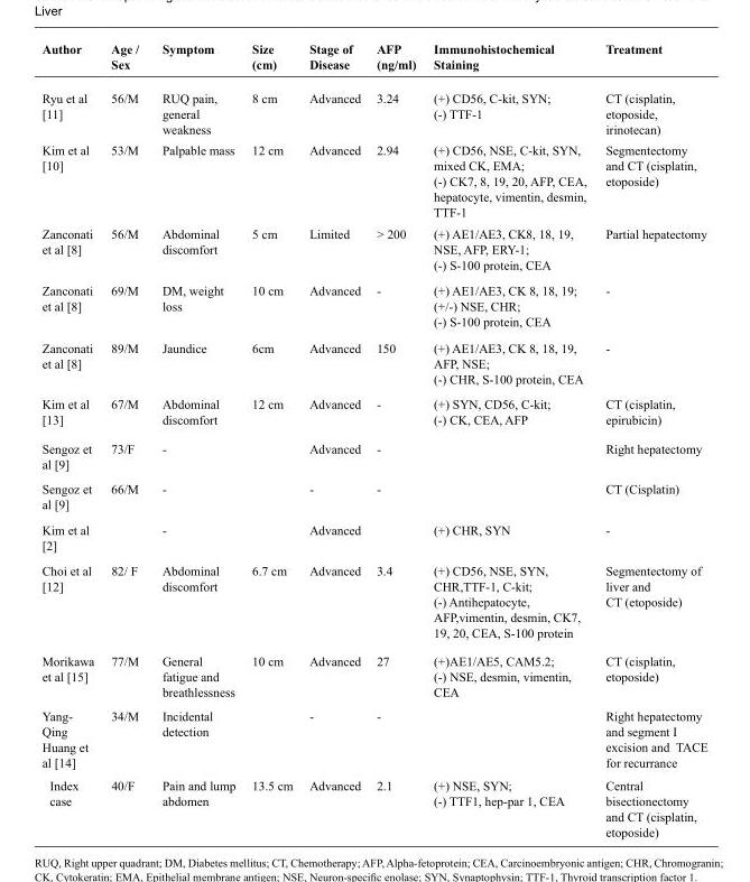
<table><thead><tr><td>Author</td><td>Age / Sex</td><td>Symptom</td><td>Size (cm)</td><td>Stage of Disease</td><td>AFP (ng/ml)</td><td>Immunohistochemical Staining</td><td>Treatment</td></tr></thead><tbody><tr><td>Ryu et al [11]</td><td>56/M</td><td>RUQ pain, general weakness</td><td>8 cm</td><td>Advanced</td><td>3.24</td><td>(+) CD56, C-kit, SYN; (-) TTF-1</td><td>CT (cisplatin, etoposide, irinotecan)</td></tr><tr><td>Kim et al [10]</td><td>53/M</td><td>Palpable mass</td><td>12 cm</td><td>Advanced</td><td>2.94</td><td>(+) CD56, NSE, C-kit, SYN, mixed CK, EMA; (-) CK7, 8, 19, 20, AFP, CEA, hepatocyte, vimentin, desmin, TTF-1</td><td>Segmentectomy and CT (cisplatin, etoposide)</td></tr><tr><td>Zanconati et al [8]</td><td>56/M</td><td>Abdominal discomfort</td><td>5 cm</td><td>Limited</td><td>&gt; 200</td><td>(+) AE1/AE3, CK8, 18, 19, NSE, AFP, ERY-1; (-) S-100 protein, CEA</td><td>Partial hepatectomy</td></tr><tr><td>Zanconati et al [8]</td><td>69/M</td><td>DM, weight loss</td><td>10 cm</td><td>Advanced</td><td>-</td><td>(+) AE1/AE3, CK 8, 18, 19; (+/-) NSE, CHR; (-) S-100 protein, CEA</td><td>-</td></tr><tr><td>Zanconati et al [8]</td><td>89/M</td><td>Jaundice</td><td>6cm</td><td>Advanced</td><td>150</td><td>(+) AE1/AE3, CK 8, 18, 19, AFP, NSE; (-) CHR, S-100 protein, CEA</td><td>-</td></tr><tr><td>Kim et al [13]</td><td>67/M</td><td>Abdominal discomfort</td><td>12 cm</td><td>Advanced</td><td>-</td><td>(+) SYN, CD56, C-kit; (-) CK, CEA, AFP</td><td>CT (cisplatin, epirubicin)</td></tr><tr><td>Sengoz et al [9]</td><td>73/F</td><td>-</td><td></td><td>Advanced</td><td>-</td><td></td><td>Right hepatectomy</td></tr><tr><td>Sengoz et al [9]</td><td>66/M</td><td>-</td><td></td><td>-</td><td>-</td><td></td><td>CT (Cisplatin)</td></tr><tr><td>Kim et al [2]</td><td></td><td>-</td><td></td><td>Advanced</td><td></td><td>(+) CHR, SYN</td><td>-</td></tr><tr><td>Choi et al [12]</td><td>82/ F</td><td>Abdominal discomfort</td><td>6.7 cm</td><td>Advanced</td><td>3.4</td><td>(+) CD56, NSE, SYN, CHR,TTF-1, C-kit; (-) Antihepatocyte, AFP,vimentin, desmin, CK7, 19, 20, CEA, S-100 protein</td><td>Segmentectomy of liver and CT (etoposide)</td></tr><tr><td>Morikawa et al [15]</td><td>77/M</td><td>General fatigue and breathlessness</td><td>10 cm</td><td>Advanced</td><td>27</td><td>(+)AE1/AE5, CAM5.2; (-) NSE, desmin, vimentin, CEA</td><td>CT (cisplatin, etoposide)</td></tr><tr><td>Yang- Qing Huang et al [14]</td><td>34/M</td><td>Incidental detection</td><td></td><td>-</td><td>-</td><td></td><td>Right hepatectomy and segment I excision and TACE for recurrance</td></tr><tr><td>Index case</td><td>40/F</td><td>Pain and lump abdomen</td><td>13.5 cm</td><td>Advanced</td><td>2.1</td><td>(+) NSE, SYN; (-) TTF1, hep-par 1, CEA</td><td>Central bisectionectomy and CT (cisplatin, etoposide)</td></tr></tbody></table>